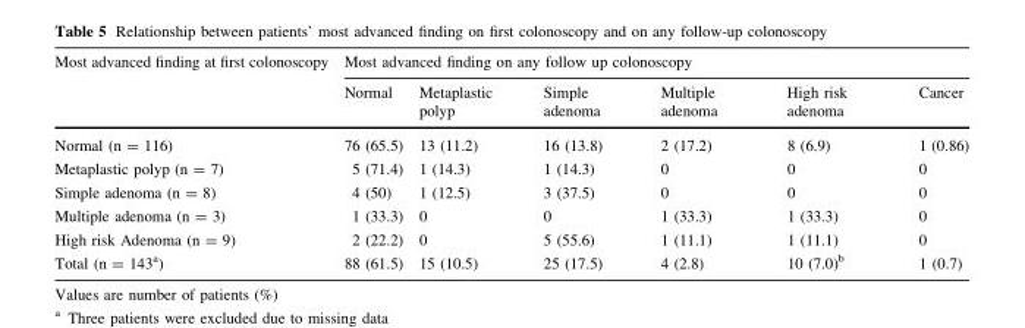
<table><thead><tr><td rowspan="2">Most advanced finding at first colonoscopy</td><td colspan="6">Most advanced finding on any follow up colonoscopy</td></tr><tr><td>Normal</td><td>Metaplastic polyp</td><td>Simple adenoma</td><td>Multiple adenoma</td><td>High risk adenoma</td><td>Cancer</td></tr></thead><tbody><tr><td>Normal (n = 116)</td><td>76 (65.5)</td><td>13 (11.2)</td><td>16 (13.8)</td><td>2 (17.2)</td><td>8 (6.9)</td><td>1 (0.86)</td></tr><tr><td>Metaplastic polyp (n = 7)</td><td>5 (71.4)</td><td>1 (14.3)</td><td>1 (14.3)</td><td>0</td><td>0</td><td>0</td></tr><tr><td>Simple adenoma (n = 8)</td><td>4 (50)</td><td>1 (12.5)</td><td>3 (37.5)</td><td>0</td><td>0</td><td>0</td></tr><tr><td>Multiple adenoma (n = 3)</td><td>1 (33.3)</td><td>0</td><td>0</td><td>1 (33.3)</td><td>1 (33.3)</td><td>0</td></tr><tr><td>High risk Adenoma (n = 9)</td><td>2 (22.2)</td><td>0</td><td>5 (55.6)</td><td>1 (11.1)</td><td>1 (11.1)</td><td>0</td></tr><tr><td>Total (n = 143<sup>a</sup>)</td><td>88 (61.5)</td><td>15 (10.5)</td><td>25 (17.5)</td><td>4 (2.8)</td><td>10 (7.0)<sup>b</sup></td><td>1 (0.7)</td></tr></tbody></table>